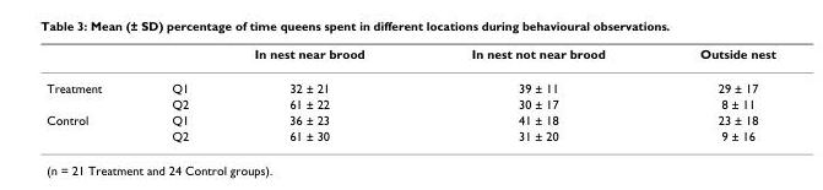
<table><thead><tr><td></td><td></td><td>In nest near brood</td><td>In nest not near brood</td><td>Outside nest</td></tr></thead><tbody><tr><td rowspan="2">Treatment</td><td>Q1</td><td>32 ± 21</td><td>39 ± 11</td><td>29 ± 17</td></tr><tr><td>Q2</td><td>61 ± 22</td><td>30 ± 17</td><td>8 ± 11</td></tr><tr><td rowspan="2">Control</td><td>Q1</td><td>36 ± 23</td><td>41 ± 18</td><td>23 ± 18</td></tr><tr><td>Q2</td><td>61 ± 30</td><td>31 ± 20</td><td>9 ± 16</td></tr></tbody></table>